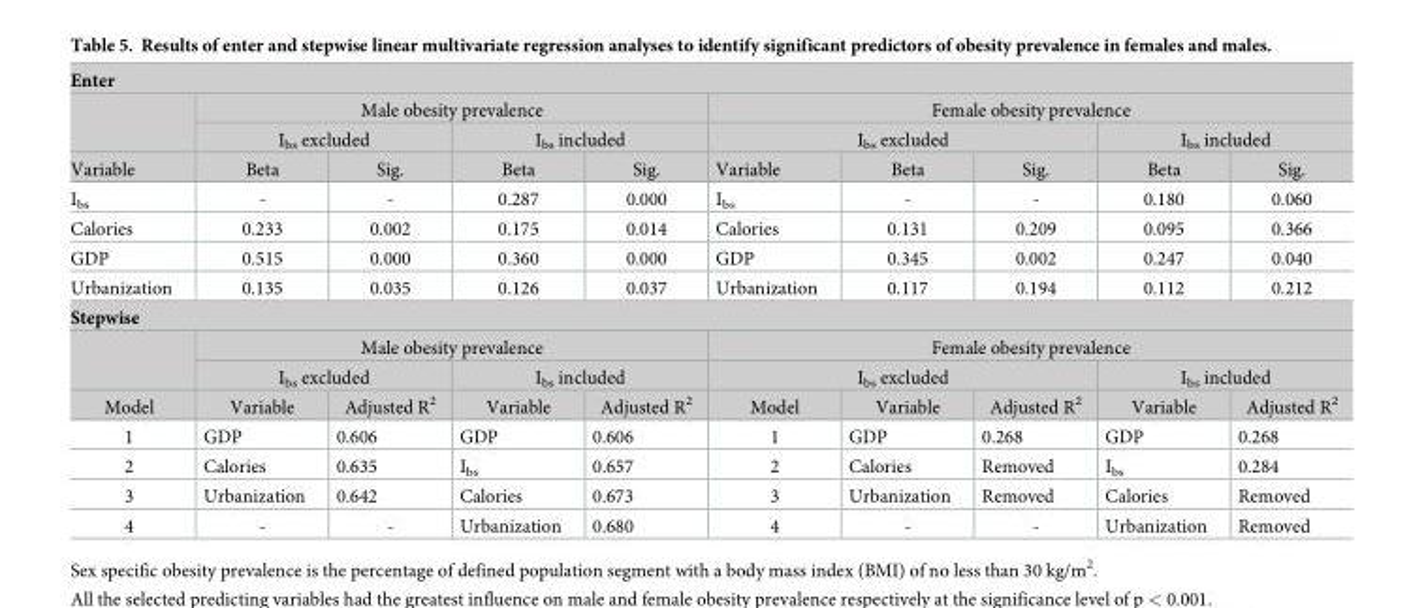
<table><tbody><tr><td colspan="10">Enter</td></tr><tr><td rowspan="2"></td><td colspan="4">Male obesity prevalence</td><td colspan="5">Female obesity prevalence</td></tr><tr><td colspan="2">I<sub>bs</sub> excluded</td><td colspan="2">I<sub>bs</sub> included</td><td colspan="3">I<sub>bs</sub> excluded</td><td colspan="2">I<sub>bs</sub> included</td></tr><tr><td>Variable</td><td>Beta</td><td>Sig.</td><td>Beta</td><td>Sig.</td><td>Variable</td><td>Beta</td><td>Sig.</td><td>Beta</td><td>Sig.</td></tr><tr><td>I<sub>bs</sub></td><td>-</td><td>-</td><td>0.287</td><td>0.000</td><td>I<sub>bs</sub></td><td>-</td><td>-</td><td>0.180</td><td>0.060</td></tr><tr><td>Calories</td><td>0.233</td><td>0.002</td><td>0.175</td><td>0.014</td><td>Calories</td><td>0.131</td><td>0.209</td><td>0.095</td><td>0.366</td></tr><tr><td>GDP</td><td>0.515</td><td>0.000</td><td>0.360</td><td>0.000</td><td>GDP</td><td>0.345</td><td>0.002</td><td>0.247</td><td>0.040</td></tr><tr><td>Urbanization</td><td>0.135</td><td>0.035</td><td>0.126</td><td>0.037</td><td>Urbanization</td><td>0.117</td><td>0.194</td><td>0.112</td><td>0.212</td></tr><tr><td colspan="10">Stepwise</td></tr><tr><td rowspan="2"></td><td colspan="4">Male obesity prevalence</td><td colspan="5">Female obesity prevalence</td></tr><tr><td colspan="2">I<sub>bs</sub> excluded</td><td colspan="2">I<sub>bs</sub> included</td><td colspan="3">I<sub>bs</sub> excluded</td><td colspan="2">I<sub>bs</sub> included</td></tr><tr><td>Model</td><td>Variable</td><td>Adjusted R<sup>2</sup></td><td>Variable</td><td>Adjusted R<sup>2</sup></td><td>Model</td><td>Variable</td><td>Adjusted R<sup>2</sup></td><td>Variable</td><td>Adjusted R<sup>2</sup></td></tr><tr><td>1</td><td>GDP</td><td>0.606</td><td>GDP</td><td>0.606</td><td>1</td><td>GDP</td><td>0.268</td><td>GDP</td><td>0.268</td></tr><tr><td>2</td><td>Calories</td><td>0.635</td><td>I<sub>bs</sub></td><td>0.657</td><td>2</td><td>Calories</td><td>Removed</td><td>I<sub>bs</sub></td><td>0.284</td></tr><tr><td>3</td><td>Urbanization</td><td>0.642</td><td>Calories</td><td>0.673</td><td>3</td><td>Urbanization</td><td>Removed</td><td>Calories</td><td>Removed</td></tr><tr><td>4</td><td>-</td><td>-</td><td>Urbanization</td><td>0.680</td><td>4</td><td>-</td><td>-</td><td>Urbanization</td><td>Removed</td></tr></tbody></table>